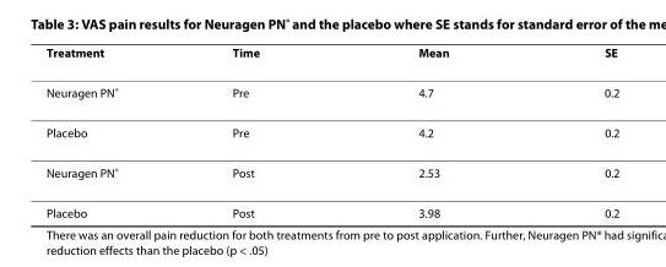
<table><thead><tr><td>Treatment</td><td>Time</td><td>Mean</td><td>SE</td></tr></thead><tbody><tr><td>Neuragen PN<sup>®</sup></td><td>Pre</td><td>4.7</td><td>0.2</td></tr><tr><td>Placebo</td><td>Pre</td><td>4.2</td><td>0.2</td></tr><tr><td>Neuragen PN<sup>®</sup></td><td>Post</td><td>2.53</td><td>0.2</td></tr><tr><td>Placebo</td><td>Post</td><td>3.98</td><td>0.2</td></tr></tbody></table>